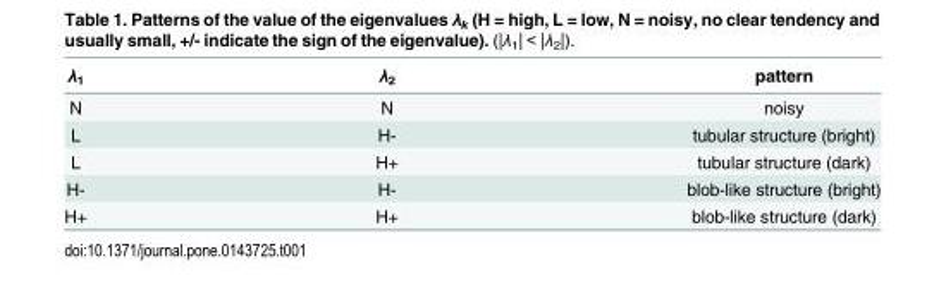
<table><thead><tr><td>λ<sub>1</sub></td><td>λ<sub>2</sub></td><td>pattern</td></tr></thead><tbody><tr><td>N</td><td>N</td><td>noisy</td></tr><tr><td>L</td><td>H-</td><td>tubular structure (bright)</td></tr><tr><td>L</td><td>H+</td><td>tubular structure (dark)</td></tr><tr><td>H-</td><td>H-</td><td>blob-like structure (bright)</td></tr><tr><td>H+</td><td>H+</td><td>blob-like structure (dark)</td></tr></tbody></table>